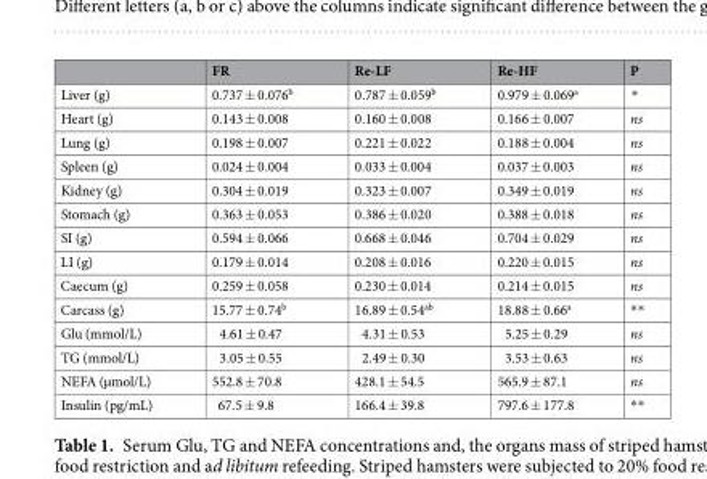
<table><thead><tr><td></td><td>FR</td><td>Re-LF</td><td>Re-HF</td><td>P</td></tr></thead><tbody><tr><td>Liver (g)</td><td>0.737 ± 0.076<sup>b</sup></td><td>0.787 ± 0.059<sup>b</sup></td><td>0.979 ± 0.069<sup>a</sup></td><td>*</td></tr><tr><td>Heart (g)</td><td>0.143 ± 0.008</td><td>0.160 ± 0.008</td><td>0.166 ± 0.007</td><td>ns</td></tr><tr><td>Lung (g)</td><td>0.198 ± 0.007</td><td>0.221 ± 0.022</td><td>0.188 ± 0.004</td><td>ns</td></tr><tr><td>Spleen (g)</td><td>0.024 ± 0.004</td><td>0.033 ± 0.004</td><td>0.037 ± 0.003</td><td>ns</td></tr><tr><td>Kidney (g)</td><td>0.304 ± 0.019</td><td>0.323 ± 0.007</td><td>0.349 ± 0.019</td><td>ns</td></tr><tr><td>Stomach (g)</td><td>0.363 ± 0.053</td><td>0.386 ± 0.020</td><td>0.388 ± 0.018</td><td>ns</td></tr><tr><td>SI (g)</td><td>0.594 ± 0.066</td><td>0.668 ± 0.046</td><td>0.704 ± 0.029</td><td>ns</td></tr><tr><td>LI (g)</td><td>0.179 ± 0.014</td><td>0.208 ± 0.016</td><td>0.220 ± 0.015</td><td>ns</td></tr><tr><td>Caecum (g)</td><td>0.259 ± 0.058</td><td>0.230 ± 0.014</td><td>0.214 ± 0.015</td><td>ns</td></tr><tr><td>Carcass (g)</td><td>15.77 ± 0.74<sup>b</sup></td><td>16.89 ± 0.54<sup>ab</sup></td><td>18.88 ± 0.66<sup>a</sup></td><td>**</td></tr><tr><td>Glu (mmol/L)</td><td>4.61 ± 0.47</td><td>4.31 ± 0.53</td><td>5.25 ± 0.29</td><td>ns</td></tr><tr><td>TG (mmol/L)</td><td>3.05 ± 0.55</td><td>2.49 ± 0.30</td><td>3.53 ± 0.63</td><td>ns</td></tr><tr><td>NEFA (µmol/L)</td><td>552.8 ± 70.8</td><td>428.1 ± 54.5</td><td>565.9 ± 87.1</td><td>ns</td></tr><tr><td>Insulin (pg/mL)</td><td>67.5 ± 9.8</td><td>166.4 ± 39.8</td><td>797.6 ± 177.8</td><td>**</td></tr></tbody></table>